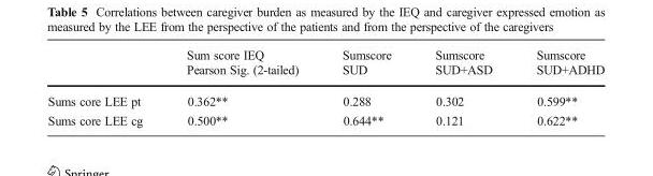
<table><thead><tr><td></td><td>Sum score IEQ Pearson Sig. (2-tailed)</td><td>Sumscore SUD</td><td>Sumscore SUD+ASD</td><td>Sumscore SUD+ADHD</td></tr></thead><tbody><tr><td>Sums core LEE pt</td><td>0.362**</td><td>0.288</td><td>0.302</td><td>0.599**</td></tr><tr><td>Sums core LEE cg</td><td>0.500**</td><td>0.644**</td><td>0.121</td><td>0.622**</td></tr></tbody></table>